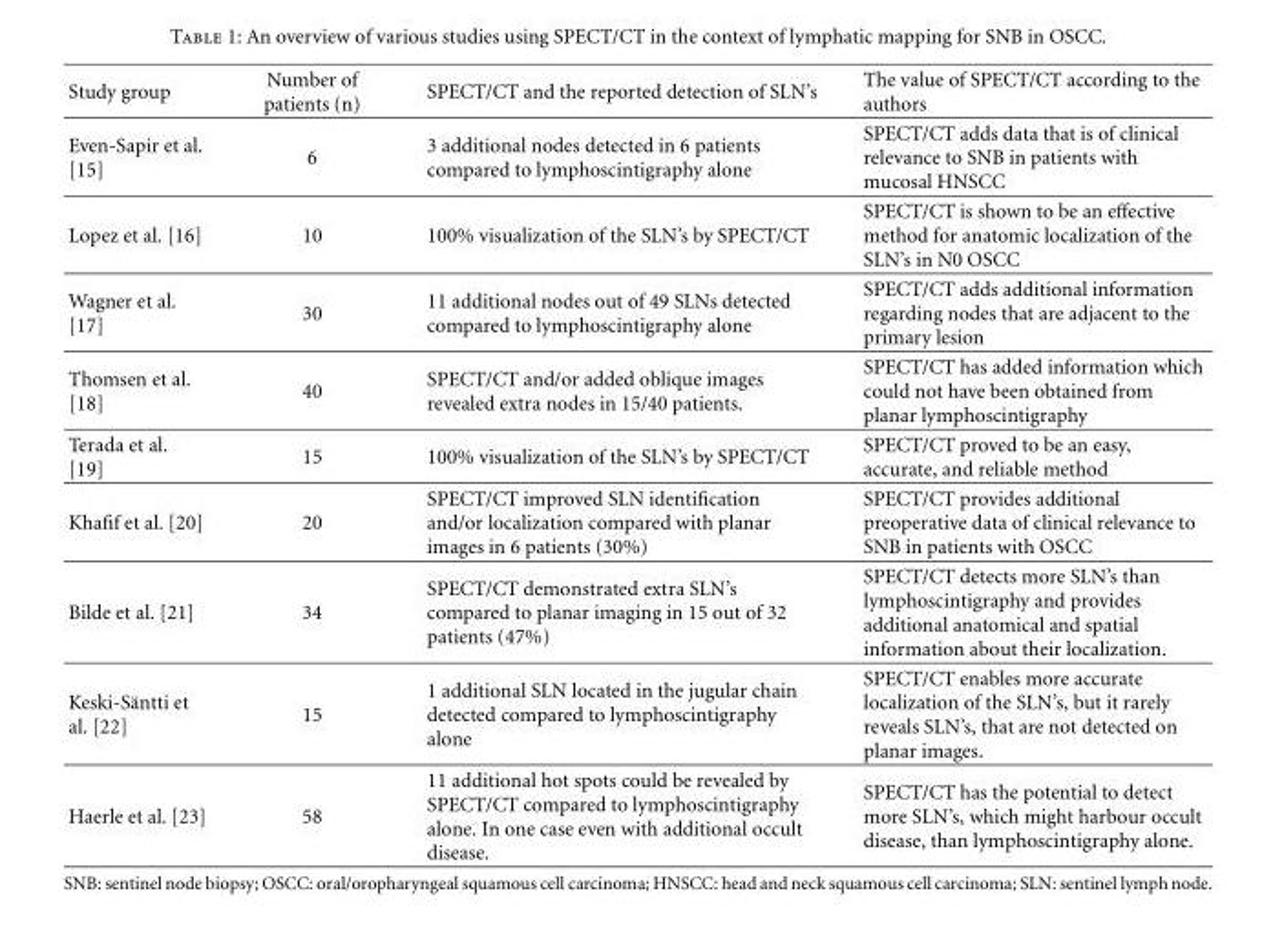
<table><thead><tr><td>Study group</td><td>Number of patients (n)</td><td>SPECT/CT and the reported detection of SLN’s</td><td>The value of SPECT/CT according to the authors</td></tr></thead><tbody><tr><td>Even-Sapir et al. [15]</td><td>6</td><td>3 additional nodes detected in 6 patients compared to lymphoscintigraphy alone</td><td>SPECT/CT adds data that is of clinical relevance to SNB in patients with mucosal HNSCC</td></tr><tr><td>Lopez et al. [16]</td><td>10</td><td>100% visualization of the SLN’s by SPECT/CT</td><td>SPECT/CT is shown to be an effective method for anatomic localization of the SLN’s in N0 OSCC</td></tr><tr><td>Wagner et al. [17]</td><td>30</td><td>11 additional nodes out of 49 SLNs detected compared to lymphoscintigraphy alone</td><td>SPECT/CT adds additional information regarding nodes that are adjacent to the primary lesion</td></tr><tr><td>Thomsen et al. [18]</td><td>40</td><td>SPECT/CT and/or added oblique images revealed extra nodes in 15/40 patients.</td><td>SPECT/CT has added information which could not have been obtained from planar lymphoscintigraphy</td></tr><tr><td>Terada et al. [19]</td><td>15</td><td>100% visualization of the SLN’s by SPECT/CT</td><td>SPECT/CT proved to be an easy, accurate, and reliable method</td></tr><tr><td>Khafif et al. [20]</td><td>20</td><td>SPECT/CT improved SLN identification and/or localization compared with planar images in 6 patients (30%)</td><td>SPECT/CT provides additional preoperative data of clinical relevance to SNB in patients with OSCC</td></tr><tr><td>Bilde et al. [21]</td><td>34</td><td>SPECT/CT demonstrated extra SLN’s compared to planar imaging in 15 out of 32 patients (47%)</td><td>SPECT/CT detects more SLN’s than lymphoscintigraphy and provides additional anatomical and spatial information about their localization.</td></tr><tr><td>Keski-S¨antti et al. [22]</td><td>15</td><td>1 additional SLN located in the jugular chain detected compared to lymphoscintigraphy alone</td><td>SPECT/CT enables more accurate localization of the SLN’s, but it rarely reveals SLN’s, that are not detected on planar images.</td></tr><tr><td>Haerle et al. [23]</td><td>58</td><td>11 additional hot spots could be revealed by SPECT/CT compared to lymphoscintigraphy alone. In one case even with additional occult disease.</td><td>SPECT/CT has the potential to detect more SLN’s, which might harbour occult disease, than lymphoscintigraphy alone.</td></tr></tbody></table>